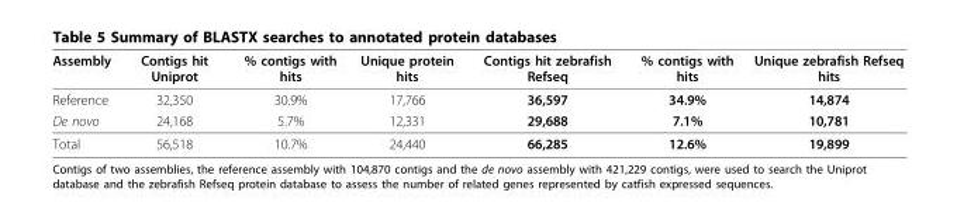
<table><thead><tr><td>Assembly</td><td>Contigs hit Uniprot</td><td>% contigs with hits</td><td>Unique protein hits</td><td>Contigs hit zebrafish Refseq</td><td>% contigs with hits</td><td>Unique zebrafish Refseq hits</td></tr></thead><tbody><tr><td>Reference</td><td>32,350</td><td>30.9%</td><td>17,766</td><td>36,597</td><td>34.9%</td><td>14,874</td></tr><tr><td>De novo</td><td>24,168</td><td>5.7%</td><td>12,331</td><td>29,688</td><td>7.1%</td><td>10,781</td></tr><tr><td>Total</td><td>56,518</td><td>10.7%</td><td>24,440</td><td>66,285</td><td>12.6%</td><td>19,899</td></tr></tbody></table>